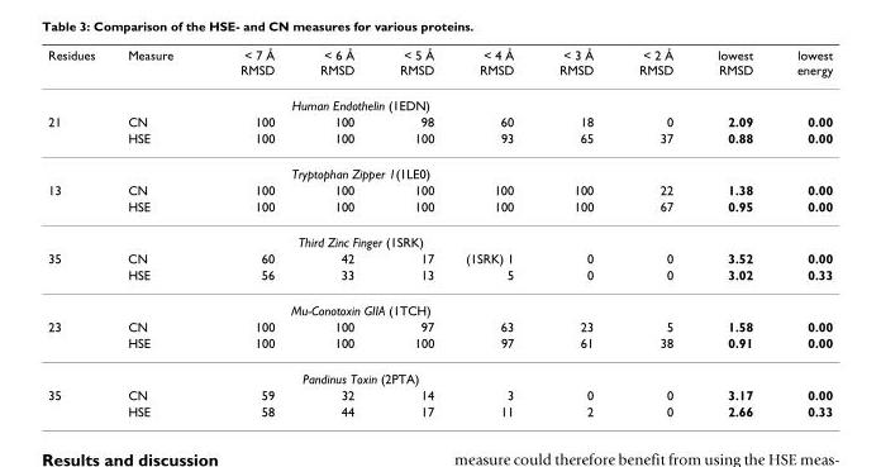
<table><thead><tr><td>Residues</td><td>Measure</td><td>&lt; 7 Å RMSD</td><td>&lt; 6 Å RMSD</td><td>&lt; 5 Å RMSD</td><td>&lt; 4 Å RMSD</td><td>&lt; 3 Å RMSD</td><td>&lt; 2 Å RMSD</td><td>lowest RMSD</td><td>lowest energy</td></tr></thead><tbody><tr><td></td><td></td><td colspan="4">Human Endothelin (1EDN)</td><td></td><td></td><td></td><td></td></tr><tr><td rowspan="3">21</td><td>CN</td><td>100</td><td>100</td><td>98</td><td>60</td><td>18</td><td>0</td><td>2.09</td><td>0.00</td></tr><tr><td>HSE</td><td>100</td><td>100</td><td>100</td><td>93</td><td>65</td><td>37</td><td>0.88</td><td>0.00</td></tr><tr><td></td><td colspan="4">Tryptophan Zipper 1(1LE0)</td><td></td><td></td><td></td><td></td></tr><tr><td rowspan="3">13</td><td>CN</td><td>100</td><td>100</td><td>100</td><td>100</td><td>100</td><td>22</td><td>1.38</td><td>0.00</td></tr><tr><td>HSE</td><td>100</td><td>100</td><td>100</td><td>100</td><td>100</td><td>67</td><td>0.95</td><td>0.00</td></tr><tr><td></td><td colspan="4">Third Zinc Finger (1SRK)</td><td></td><td></td><td></td><td></td></tr><tr><td rowspan="3">35</td><td>CN</td><td>60</td><td>42</td><td>17</td><td>(1SRK) 1</td><td>0</td><td>0</td><td>3.52</td><td>0.00</td></tr><tr><td>HSE</td><td>56</td><td>33</td><td>13</td><td>5</td><td>0</td><td>0</td><td>3.02</td><td>0.33</td></tr><tr><td></td><td colspan="4">Mu-Conotoxin GIIA (1TCH)</td><td></td><td></td><td></td><td></td></tr><tr><td rowspan="3">23</td><td>CN</td><td>100</td><td>100</td><td>97</td><td>63</td><td>23</td><td>5</td><td>1.58</td><td>0.00</td></tr><tr><td>HSE</td><td>100</td><td>100</td><td>100</td><td>97</td><td>61</td><td>38</td><td>0.91</td><td>0.00</td></tr><tr><td></td><td colspan="4">Pandinus Toxin (2PTA)</td><td></td><td></td><td></td><td></td></tr><tr><td rowspan="2">35</td><td>CN</td><td>59</td><td>32</td><td>14</td><td>3</td><td>0</td><td>0</td><td>3.17</td><td>0.00</td></tr><tr><td>HSE</td><td>58</td><td>44</td><td>17</td><td>11</td><td>2</td><td>0</td><td>2.66</td><td>0.33</td></tr></tbody></table>